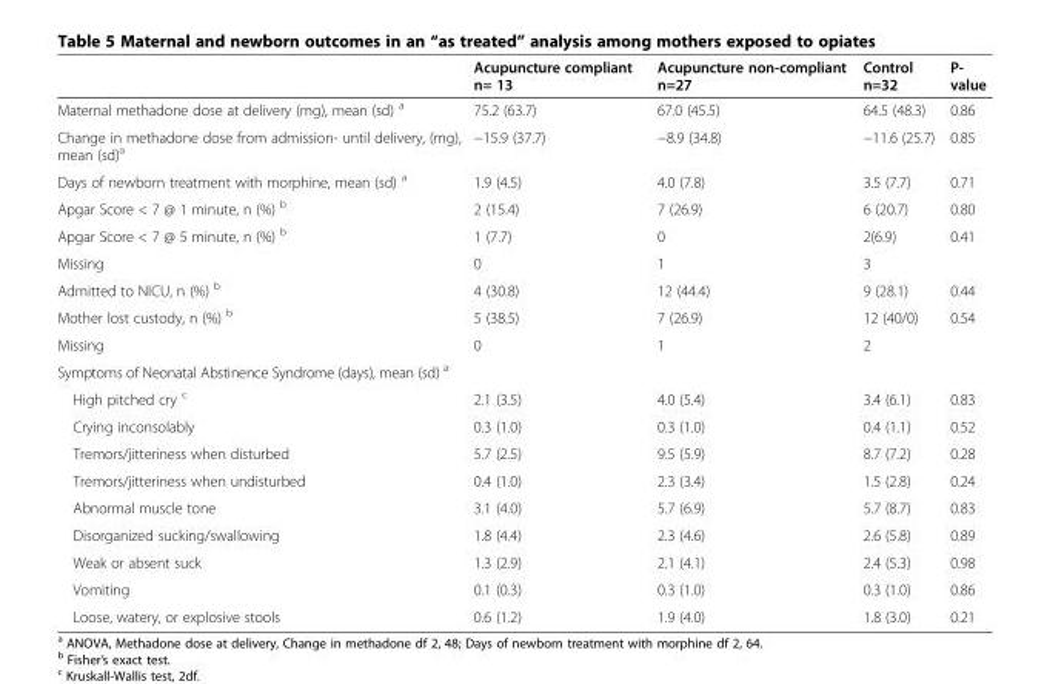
<table><thead><tr><td></td><td>Acupuncture compliant n= 13</td><td>Acupuncture non-compliant n=27</td><td>Control n=32</td><td>P- value</td></tr></thead><tbody><tr><td>Maternal methadone dose at delivery (mg), mean (sd) <sup>a</sup></td><td>75.2 (63.7)</td><td>67.0 (45.5)</td><td>64.5 (48.3)</td><td>0.86</td></tr><tr><td>Change in methadone dose from admission- until delivery, (mg), mean (sd)<sup>a</sup></td><td>−15.9 (37.7)</td><td>−8.9 (34.8)</td><td>−11.6 (25.7)</td><td>0.85</td></tr><tr><td>Days of newborn treatment with morphine, mean (sd) <sup>a</sup></td><td>1.9 (4.5)</td><td>4.0 (7.8)</td><td>3.5 (7.7)</td><td>0.71</td></tr><tr><td>Apgar Score &lt; 7 @ 1 minute, n (%) <sup>b</sup></td><td>2 (15.4)</td><td>7 (26.9)</td><td>6 (20.7)</td><td>0.80</td></tr><tr><td>Apgar Score &lt; 7 @ 5 minute, n (%) <sup>b</sup></td><td>1 (7.7)</td><td>0</td><td>2(6.9)</td><td>0.41</td></tr><tr><td>Missing</td><td>0</td><td>1</td><td>3</td><td></td></tr><tr><td>Admitted to NICU, n (%) <sup>b</sup></td><td>4 (30.8)</td><td>12 (44.4)</td><td>9 (28.1)</td><td>0.44</td></tr><tr><td>Mother lost custody, n (%) <sup>b</sup></td><td>5 (38.5)</td><td>7 (26.9)</td><td>12 (40/0)</td><td>0.54</td></tr><tr><td>Missing</td><td>0</td><td>1</td><td>2</td><td></td></tr><tr><td colspan="5">Symptoms of Neonatal Abstinence Syndrome (days), mean (sd) <sup>a</sup></td></tr><tr><td>High pitched cry <sup>c</sup></td><td>2.1 (3.5)</td><td>4.0 (5.4)</td><td>3.4 (6.1)</td><td>0.83</td></tr><tr><td>Crying inconsolably</td><td>0.3 (1.0)</td><td>0.3 (1.0)</td><td>0.4 (1.1)</td><td>0.52</td></tr><tr><td>Tremors/jitteriness when disturbed</td><td>5.7 (2.5)</td><td>9.5 (5.9)</td><td>8.7 (7.2)</td><td>0.28</td></tr><tr><td>Tremors/jitteriness when undisturbed</td><td>0.4 (1.0)</td><td>2.3 (3.4)</td><td>1.5 (2.8)</td><td>0.24</td></tr><tr><td>Abnormal muscle tone</td><td>3.1 (4.0)</td><td>5.7 (6.9)</td><td>5.7 (8.7)</td><td>0.83</td></tr><tr><td>Disorganized sucking/swallowing</td><td>1.8 (4.4)</td><td>2.3 (4.6)</td><td>2.6 (5.8)</td><td>0.89</td></tr><tr><td>Weak or absent suck</td><td>1.3 (2.9)</td><td>2.1 (4.1)</td><td>2.4 (5.3)</td><td>0.98</td></tr><tr><td>Vomiting</td><td>0.1 (0.3)</td><td>0.3 (1.0)</td><td>0.3 (1.0)</td><td>0.86</td></tr><tr><td>Loose, watery, or explosive stools</td><td>0.6 (1.2)</td><td>1.9 (4.0)</td><td>1.8 (3.0)</td><td>0.21</td></tr></tbody></table>